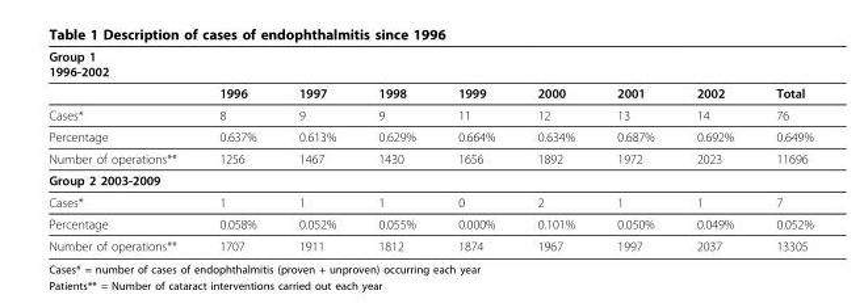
<table><thead><tr><td>Group 1 1996-2002</td><td></td><td></td><td></td><td></td><td></td><td></td><td></td><td></td></tr></thead><tbody><tr><td></td><td>1996</td><td>1997</td><td>1998</td><td>1999</td><td>2000</td><td>2001</td><td>2002</td><td>Total</td></tr><tr><td>Cases*</td><td>8</td><td>9</td><td>9</td><td>11</td><td>12</td><td>13</td><td>14</td><td>76</td></tr><tr><td>Percentage</td><td>0.637%</td><td>0.613%</td><td>0.629%</td><td>0.664%</td><td>0.634%</td><td>0.687%</td><td>0.692%</td><td>0.649%</td></tr><tr><td>Number of operations**</td><td>1256</td><td>1467</td><td>1430</td><td>1656</td><td>1892</td><td>1972</td><td>2023</td><td>11696</td></tr><tr><td colspan="9">Group 2 2003-2009</td></tr><tr><td>Cases*</td><td>1</td><td>1</td><td>1</td><td>0</td><td>2</td><td>1</td><td>1</td><td>7</td></tr><tr><td>Percentage</td><td>0.058%</td><td>0.052%</td><td>0.055%</td><td>0.000%</td><td>0.101%</td><td>0.050%</td><td>0.049%</td><td>0.052%</td></tr><tr><td>Number of operations**</td><td>1707</td><td>1911</td><td>1812</td><td>1874</td><td>1967</td><td>1997</td><td>2037</td><td>13305</td></tr></tbody></table>